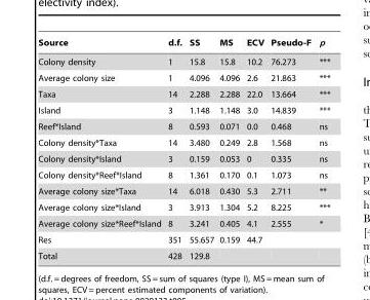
<table><thead><tr><td>Source</td><td>d.f.</td><td>SS</td><td>MS</td><td>ECV</td><td>Pseudo-F</td><td>p</td></tr></thead><tbody><tr><td>Colony density</td><td>1</td><td>15.8</td><td>15.8</td><td>10.2</td><td>76.273</td><td>***</td></tr><tr><td>Average colony size</td><td>1</td><td>4.096</td><td>4.096</td><td>2.6</td><td>21.863</td><td>***</td></tr><tr><td>Taxa</td><td>14</td><td>2.288</td><td>2.288</td><td>22.0</td><td>13.664</td><td>***</td></tr><tr><td>Island</td><td>3</td><td>1.148</td><td>1.148</td><td>3.0</td><td>14.839</td><td>***</td></tr><tr><td>Reef*Island</td><td>8</td><td>0.593</td><td>0.071</td><td>0.0</td><td>0.468</td><td>ns</td></tr><tr><td>Colony density*Taxa</td><td>14</td><td>3.480</td><td>0.249</td><td>2.8</td><td>1.568</td><td>ns</td></tr><tr><td>Colony density*Island</td><td>3</td><td>0.159</td><td>0.053</td><td>0</td><td>0.335</td><td>ns</td></tr><tr><td>Colony density*Reef*Island</td><td>8</td><td>1.361</td><td>0.170</td><td>0.1</td><td>1.073</td><td>ns</td></tr><tr><td>Average colony size*Taxa</td><td>14</td><td>6.018</td><td>0.430</td><td>5.3</td><td>2.711</td><td>**</td></tr><tr><td>Average colony size*Island</td><td>3</td><td>3.913</td><td>1.304</td><td>5.2</td><td>8.225</td><td>***</td></tr><tr><td>Average colony size*Reef*Island</td><td>8</td><td>3.241</td><td>0.405</td><td>4.1</td><td>2.555</td><td>*</td></tr><tr><td>Res</td><td>351</td><td>55.657</td><td>0.159</td><td>44.7</td><td></td><td></td></tr><tr><td>Total</td><td>428</td><td>129.8</td><td></td><td></td><td></td><td></td></tr></tbody></table>